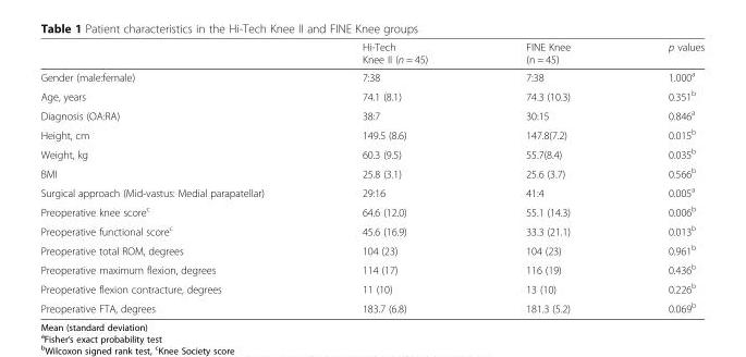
<table><thead><tr><td></td><td>Hi-Tech Knee II (n = 45)</td><td>FINE Knee (n = 45)</td><td>p values</td></tr></thead><tbody><tr><td>Gender (male:female)</td><td>7:38</td><td>7:38</td><td>1.000<sup>a</sup></td></tr><tr><td>Age, years</td><td>74.1 (8.1)</td><td>74.3 (10.3)</td><td>0.351<sup>b</sup></td></tr><tr><td>Diagnosis (OA:RA)</td><td>38:7</td><td>30:15</td><td>0.846<sup>a</sup></td></tr><tr><td>Height, cm</td><td>149.5 (8.6)</td><td>147.8(7.2)</td><td>0.015<sup>b</sup></td></tr><tr><td>Weight, kg</td><td>60.3 (9.5)</td><td>55.7(8.4)</td><td>0.035<sup>b</sup></td></tr><tr><td>BMI</td><td>25.8 (3.1)</td><td>25.6 (3.7)</td><td>0.566<sup>b</sup></td></tr><tr><td>Surgical approach (Mid-vastus: Medial parapatellar)</td><td>29:16</td><td>41:4</td><td>0.005<sup>a</sup></td></tr><tr><td>Preoperative knee score<sup>c</sup></td><td>64.6 (12.0)</td><td>55.1 (14.3)</td><td>0.006<sup>b</sup></td></tr><tr><td>Preoperative functional score<sup>c</sup></td><td>45.6 (16.9)</td><td>33.3 (21.1)</td><td>0.013<sup>b</sup></td></tr><tr><td>Preoperative total ROM, degrees</td><td>104 (23)</td><td>104 (23)</td><td>0.961<sup>b</sup></td></tr><tr><td>Preoperative maximum flexion, degrees</td><td>114 (17)</td><td>116 (19)</td><td>0.436<sup>b</sup></td></tr><tr><td>Preoperative flexion contracture, degrees</td><td>11 (10)</td><td>13 (10)</td><td>0.226<sup>b</sup></td></tr><tr><td>Preoperative FTA, degrees</td><td>183.7 (6.8)</td><td>181.3 (5.2)</td><td>0.069<sup>b</sup></td></tr></tbody></table>